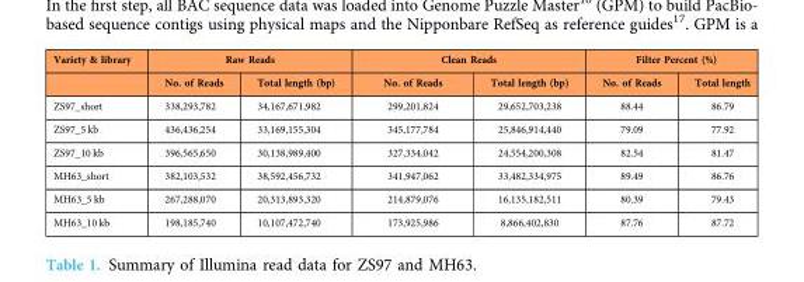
<table><thead><tr><td rowspan="2">Variety &amp; library</td><td colspan="2">Raw Reads</td><td colspan="2">Clean Reads</td><td colspan="2">Filter Percent (%)</td></tr><tr><td>No. of Reads</td><td>Total length (bp)</td><td>No. of Reads</td><td>Total length (bp)</td><td>No. of Reads</td><td>Total length</td></tr></thead><tbody><tr><td>ZS97_short</td><td>338,293,782</td><td>34,167,671,982</td><td>299,201,824</td><td>29,652,703,238</td><td>88.44</td><td>86.79</td></tr><tr><td>ZS97_5 kb</td><td>436,436,254</td><td>33,169,155,304</td><td>345,177,784</td><td>25,846,914,440</td><td>79.09</td><td>77.92</td></tr><tr><td>ZS97_10 kb</td><td>396,565,650</td><td>30,138,989,400</td><td>327,334,042</td><td>24,554,200,308</td><td>82.54</td><td>81.47</td></tr><tr><td>MH63_short</td><td>382,103,532</td><td>38,592,456,732</td><td>341,947,062</td><td>33,482,334,975</td><td>89.49</td><td>86.76</td></tr><tr><td>MH63_5 kb</td><td>267,288,070</td><td>20,313,893,320</td><td>214,879,076</td><td>16,135,182,511</td><td>80.39</td><td>79.43</td></tr><tr><td>MH63_10 kb</td><td>198,185,740</td><td>10,107,472,740</td><td>173,925,986</td><td>8,866,402,830</td><td>87.76</td><td>87.72</td></tr></tbody></table>